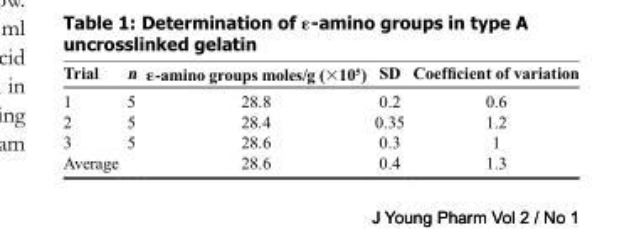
<table><thead><tr><td>Trial</td><td>n</td><td>ε-amino groups moles/g (×10<sup>5</sup>)</td><td>SD</td><td>Coefficient of variation</td></tr></thead><tbody><tr><td>1</td><td>5</td><td>28.8</td><td>0.2</td><td>0.6</td></tr><tr><td>2</td><td>5</td><td>28.4</td><td>0.35</td><td>1.2</td></tr><tr><td>3</td><td>5</td><td>28.6</td><td>0.3</td><td>1</td></tr><tr><td>Average</td><td></td><td>28.6</td><td>0.4</td><td>1.3</td></tr></tbody></table>